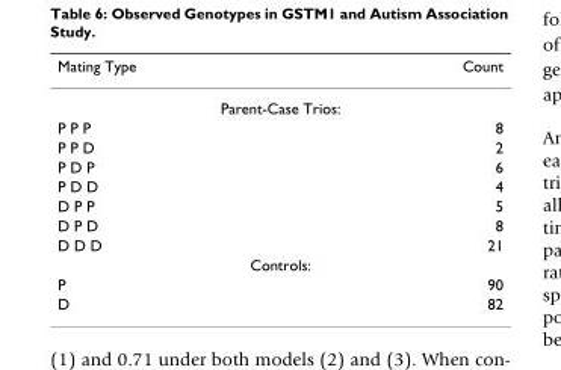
<table><thead><tr><td>Mating Type</td><td>Count</td></tr></thead><tbody><tr><td colspan="2">Parent-Case Trios:</td></tr><tr><td>P P P</td><td>8</td></tr><tr><td>P P D</td><td>2</td></tr><tr><td>P D P</td><td>6</td></tr><tr><td>P D D</td><td>4</td></tr><tr><td>D P P</td><td>5</td></tr><tr><td>D P D</td><td>8</td></tr><tr><td>D D D</td><td>21</td></tr><tr><td colspan="2">Controls:</td></tr><tr><td>P</td><td>90</td></tr><tr><td>D</td><td>82</td></tr></tbody></table>